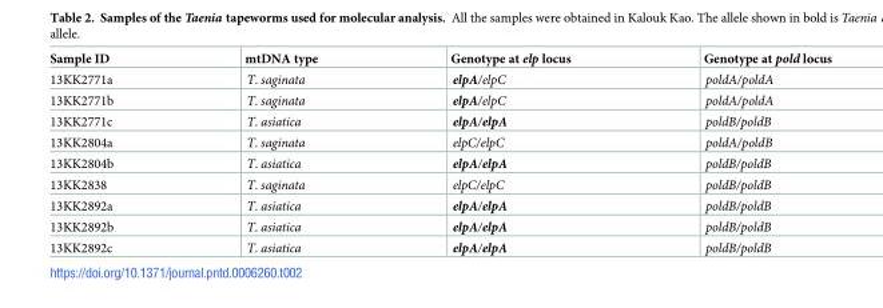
<table><thead><tr><td>Sample ID</td><td>mtDNA type</td><td>Genotype at elp locus</td><td>Genotype at pold locus</td></tr></thead><tbody><tr><td>13KK2771a</td><td>T. saginata</td><td>elpA/elpC</td><td>poldA/poldA</td></tr><tr><td>13KK2771b</td><td>T. saginata</td><td>elpA/elpC</td><td>poldA/poldA</td></tr><tr><td>13KK2771c</td><td>T. asiatica</td><td>elpA/elpA</td><td>poldB/poldB</td></tr><tr><td>13KK2804a</td><td>T. saginata</td><td>elpC/elpC</td><td>poldA/poldB</td></tr><tr><td>13KK2804b</td><td>T. asiatica</td><td>elpA/elpA</td><td>poldB/poldB</td></tr><tr><td>13KK2838</td><td>T. saginata</td><td>elpC/elpC</td><td>poldB/poldB</td></tr><tr><td>13KK2892a</td><td>T. asiatica</td><td>elpA/elpA</td><td>poldB/poldB</td></tr><tr><td>13KK2892b</td><td>T. asiatica</td><td>elpA/elpA</td><td>poldB/poldB</td></tr><tr><td>13KK2892c</td><td>T. asiatica</td><td>elpA/elpA</td><td>poldB/poldB</td></tr></tbody></table>